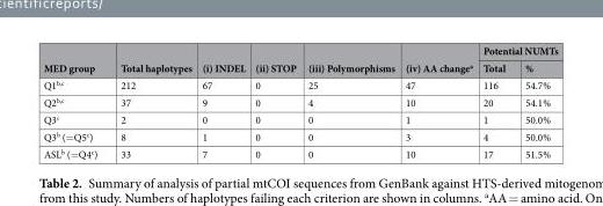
<table><thead><tr><td rowspan="2">MED group</td><td rowspan="2">Total haplotypes</td><td rowspan="2">(i) INDEL</td><td rowspan="2">(ii) STOP</td><td rowspan="2">(iii) Polymorphisms</td><td rowspan="2">(iv) AA change<sup>a</sup></td><td colspan="2">Potential NUMTs</td></tr><tr><td>Total</td><td>%</td></tr></thead><tbody><tr><td>Q1<sup>b,c</sup></td><td>212</td><td>67</td><td>0</td><td>25</td><td>47</td><td>116</td><td>54.7%</td></tr><tr><td>Q2<sup>b,c</sup></td><td>37</td><td>9</td><td>0</td><td>4</td><td>10</td><td>20</td><td>54.1%</td></tr><tr><td>Q3<sup>c</sup></td><td>2</td><td>0</td><td>0</td><td>0</td><td>1</td><td>1</td><td>50.0%</td></tr><tr><td>Q3<sup>b</sup> (=Q5<sup>c</sup>)</td><td>8</td><td>1</td><td>0</td><td>0</td><td>3</td><td>4</td><td>50.0%</td></tr><tr><td>ASL<sup>b</sup> (=Q4<sup>c</sup>)</td><td>33</td><td>7</td><td>0</td><td>0</td><td>10</td><td>17</td><td>51.5%</td></tr></tbody></table>